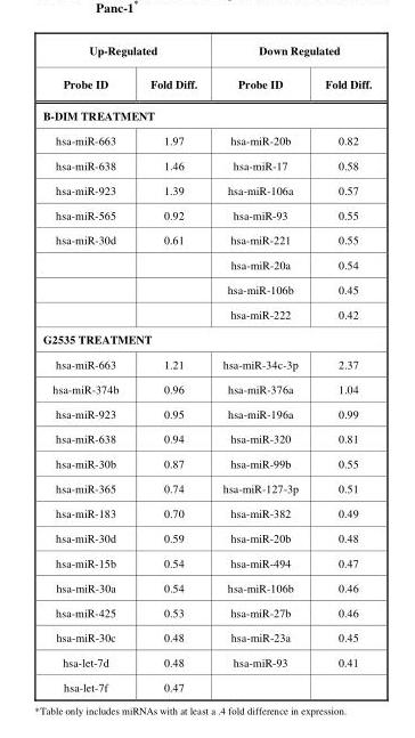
<table><thead><tr><td colspan="2">Up-Regulated</td><td colspan="2">Down Regulated</td></tr><tr><td>Probe ID</td><td>Fold Diff.</td><td>Probe ID</td><td>Fold Diff.</td></tr></thead><tbody><tr><td colspan="4">B-DIM TREATMENT</td></tr><tr><td>hsa-miR-663</td><td>1.97</td><td>hsa-miR-20b</td><td>0.82</td></tr><tr><td>hsa-miR-638</td><td>1.46</td><td>hsa-miR-17</td><td>0.58</td></tr><tr><td>hsa-miR-923</td><td>1.39</td><td>hsa-miR-106a</td><td>0.57</td></tr><tr><td>hsa-miR-565</td><td>0.92</td><td>hsa-miR-93</td><td>0.55</td></tr><tr><td rowspan="4">hsa-miR-30d</td><td>0.61</td><td>hsa-miR-221</td><td>0.55</td></tr><tr><td></td><td>hsa-miR-20a</td><td>0.54</td></tr><tr><td></td><td>hsa-miR-106b</td><td>0.45</td></tr><tr><td></td><td>hsa-miR-222</td><td>0.42</td></tr><tr><td colspan="4">G2535 TREATMENT</td></tr><tr><td>hsa-miR-663</td><td>1.21</td><td>hsa-miR-34c-3p</td><td>2.37</td></tr><tr><td>hsa-miR-374b</td><td>0.96</td><td>hsa-miR-376a</td><td>1.04</td></tr><tr><td>hsa-miR-923</td><td>0.95</td><td>hsa-miR-196a</td><td>0.99</td></tr><tr><td>hsa-miR-638</td><td>0.94</td><td>hsa-miR-320</td><td>0.81</td></tr><tr><td>hsa-miR-30b</td><td>0.87</td><td>hsa-miR-99b</td><td>0.55</td></tr><tr><td>hsa-miR-365</td><td>0.74</td><td>hsa-miR-127-3p</td><td>0.51</td></tr><tr><td>hsa-miR-183</td><td>0.70</td><td>hsa-miR-382</td><td>0.49</td></tr><tr><td>hsa-miR-30d</td><td>0.59</td><td>hsa-miR-20b</td><td>0.48</td></tr><tr><td>hsa-miR-15b</td><td>0.54</td><td>hsa-miR-494</td><td>0.47</td></tr><tr><td>hsa-miR-30a</td><td>0.54</td><td>hsa-miR-106b</td><td>0.46</td></tr><tr><td>hsa-miR-425</td><td>0.53</td><td>hsa-miR-27b</td><td>0.46</td></tr><tr><td>hsa-miR-30c</td><td>0.48</td><td>hsa-miR-23a</td><td>0.45</td></tr><tr><td>hsa-let-7d</td><td>0.48</td><td>hsa-miR-93</td><td>0.41</td></tr><tr><td>hsa-let-7f</td><td>0.47</td><td></td><td></td></tr></tbody></table>